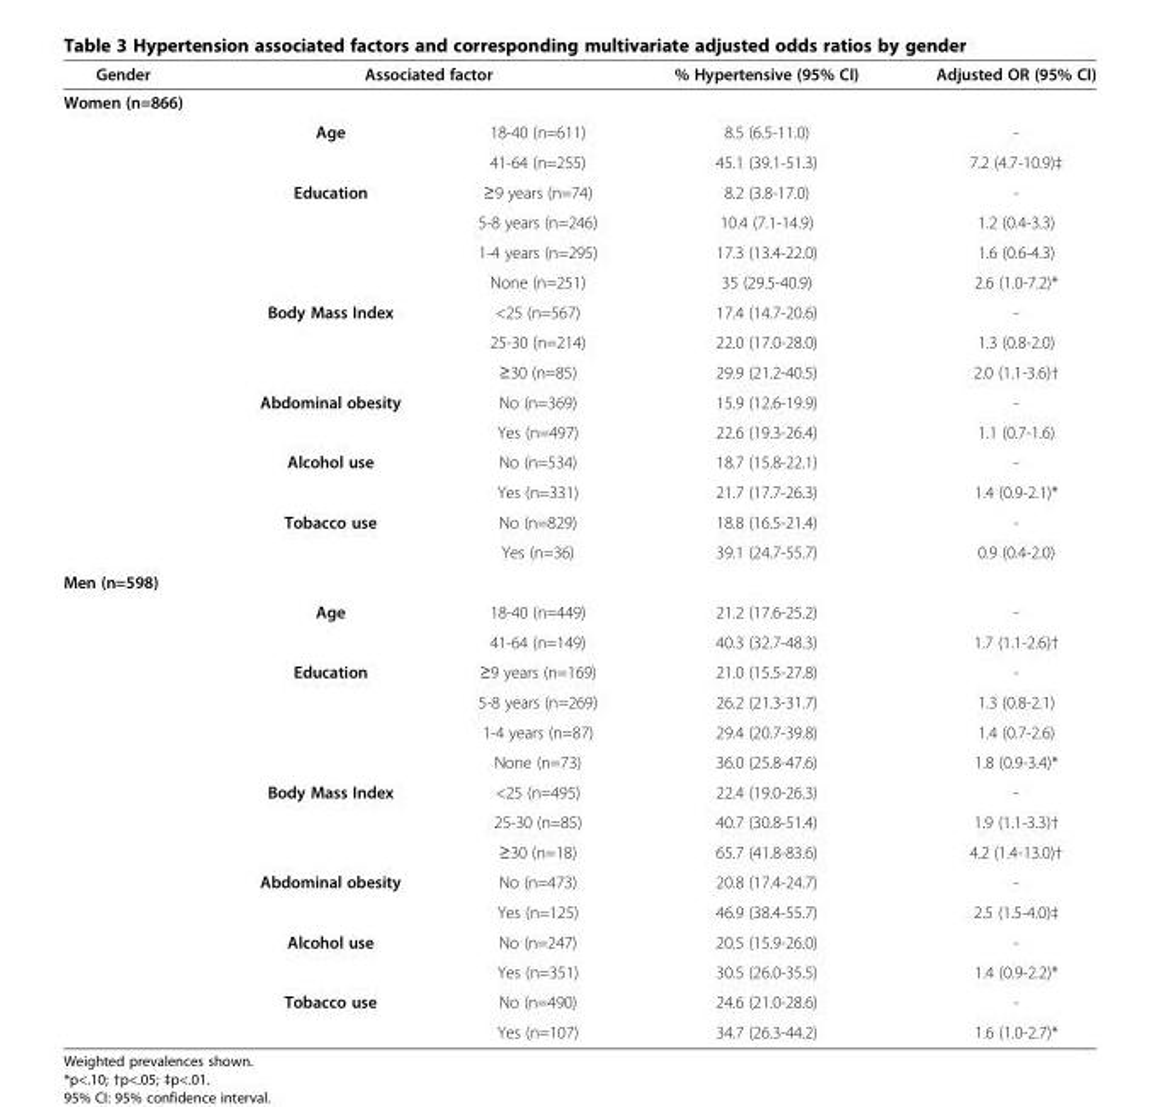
<table><thead><tr><td rowspan="2">Gender Women (n=866)</td><td colspan="2">Associated factor</td><td rowspan="2">% Hypertensive (95% CI)</td><td rowspan="2">Adjusted OR (95% CI)</td></tr><tr><td></td><td></td></tr></thead><tbody><tr><td rowspan="15"></td><td rowspan="2">Age</td><td>18-40 (n=611)</td><td>8.5 (6.5-11.0)</td><td>-</td></tr><tr><td>41-64 (n=255)</td><td>45.1 (39.1-51.3)</td><td>7.2 (4.7-10.9)‡</td></tr><tr><td rowspan="4">Education</td><td>≥9 years (n=74)</td><td>8.2 (3.8-17.0)</td><td>-</td></tr><tr><td>5-8 years (n=246)</td><td>10.4 (7.1-14.9)</td><td>1.2 (0.4-3.3)</td></tr><tr><td>1-4 years (n=295)</td><td>17.3 (13.4-22.0)</td><td>1.6 (0.6-4.3)</td></tr><tr><td>None (n=251)</td><td>35 (29.5-40.9)</td><td>2.6 (1.0-7.2)*</td></tr><tr><td rowspan="3">Body Mass Index</td><td>&lt;25 (n=567)</td><td>17.4 (14.7-20.6)</td><td>-</td></tr><tr><td>25-30 (n=214)</td><td>22.0 (17.0-28.0)</td><td>1.3 (0.8-2.0)</td></tr><tr><td>≥30 (n=85)</td><td>29.9 (21.2-40.5)</td><td>2.0 (1.1-3.6)†</td></tr><tr><td rowspan="2">Abdominal obesity</td><td>No (n=369)</td><td>15.9 (12.6-19.9)</td><td>-</td></tr><tr><td>Yes (n=497)</td><td>22.6 (19.3-26.4)</td><td>1.1 (0.7-1.6)</td></tr><tr><td rowspan="2">Alcohol use</td><td>No (n=534)</td><td>18.7 (15.8-22.1)</td><td>-</td></tr><tr><td>Yes (n=331)</td><td>21.7 (17.7-26.3)</td><td>1.4 (0.9-2.1)*</td></tr><tr><td rowspan="2">Tobacco use</td><td>No (n=829)</td><td>18.8 (16.5-21.4)</td><td>-</td></tr><tr><td>Yes (n=36)</td><td>39.1 (24.7-55.7)</td><td>0.9 (0.4-2.0)</td></tr><tr><td colspan="5">Men (n=598)</td></tr><tr><td rowspan="15"></td><td rowspan="2">Age</td><td>18-40 (n=449)</td><td>21.2 (17.6-25.2)</td><td>-</td></tr><tr><td>41-64 (n=149)</td><td>40.3 (32.7-48.3)</td><td>1.7 (1.1-2.6)†</td></tr><tr><td rowspan="4">Education</td><td>≥9 years (n=169)</td><td>21.0 (15.5-27.8)</td><td>-</td></tr><tr><td>5-8 years (n=269)</td><td>26.2 (21.3-31.7)</td><td>1.3 (0.8-2.1)</td></tr><tr><td>1-4 years (n=87)</td><td>29.4 (20.7-39.8)</td><td>1.4 (0.7-2.6)</td></tr><tr><td>None (n=73)</td><td>36.0 (25.8-47.6)</td><td>1.8 (0.9-3.4)*</td></tr><tr><td rowspan="3">Body Mass Index</td><td>&lt;25 (n=495)</td><td>22.4 (19.0-26.3)</td><td>-</td></tr><tr><td>25-30 (n=85)</td><td>40.7 (30.8-51.4)</td><td>1.9 (1.1-3.3)†</td></tr><tr><td>≥30 (n=18)</td><td>65.7 (41.8-83.6)</td><td>4.2 (1.4-13.0)†</td></tr><tr><td rowspan="2">Abdominal obesity</td><td>No (n=473)</td><td>20.8 (17.4-24.7)</td><td>-</td></tr><tr><td>Yes (n=125)</td><td>46.9 (38.4-55.7)</td><td>2.5 (1.5-4.0)‡</td></tr><tr><td rowspan="2">Alcohol use</td><td>No (n=247)</td><td>20.5 (15.9-26.0)</td><td>-</td></tr><tr><td>Yes (n=351)</td><td>30.5 (26.0-35.5)</td><td>1.4 (0.9-2.2)*</td></tr><tr><td rowspan="2">Tobacco use</td><td>No (n=490)</td><td>24.6 (21.0-28.6)</td><td>-</td></tr><tr><td>Yes (n=107)</td><td>34.7 (26.3-44.2)</td><td>1.6 (1.0-2.7)*</td></tr></tbody></table>